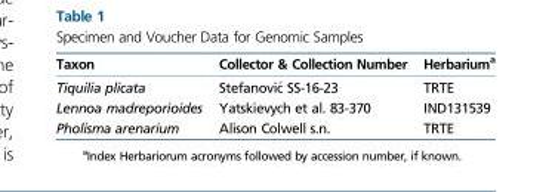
<table><thead><tr><td>Taxon</td><td>Collector &amp; Collection Number</td><td>Herbarium<sup>a</sup></td></tr></thead><tbody><tr><td>Tiquilia plicata</td><td>Stefanovi�c SS-16-23</td><td>TRTE</td></tr><tr><td>Lennoa madreporioides</td><td>Yatskievych et al. 83-370</td><td>IND131539</td></tr><tr><td>Pholisma arenarium</td><td>Alison Colwell s.n.</td><td>TRTE</td></tr></tbody></table>